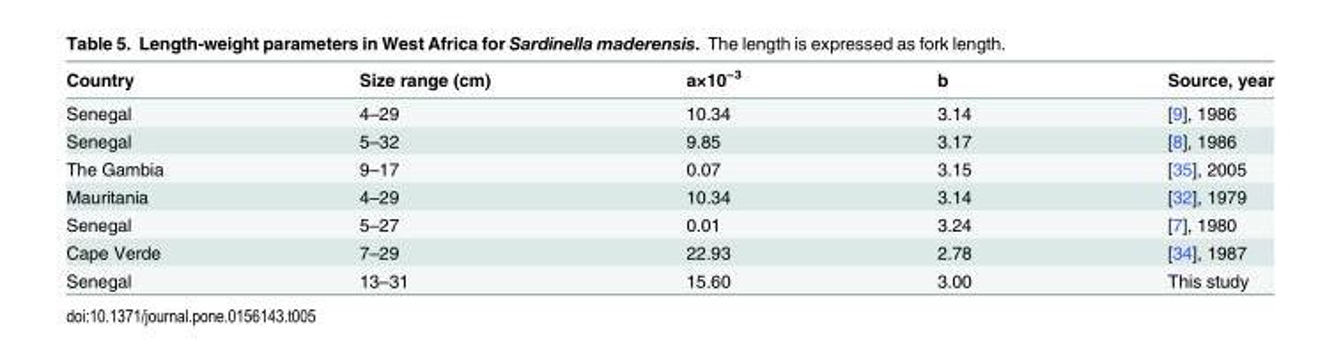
<table><thead><tr><td>Country</td><td>Size range (cm)</td><td>a×10<sup>−3</sup></td><td>b</td><td>Source, year</td></tr></thead><tbody><tr><td>Senegal</td><td>4–29</td><td>10.34</td><td>3.14</td><td>[9], 1986</td></tr><tr><td>Senegal</td><td>5–32</td><td>9.85</td><td>3.17</td><td>[8], 1986</td></tr><tr><td>The Gambia</td><td>9–17</td><td>0.07</td><td>3.15</td><td>[35], 2005</td></tr><tr><td>Mauritania</td><td>4–29</td><td>10.34</td><td>3.14</td><td>[32], 1979</td></tr><tr><td>Senegal</td><td>5–27</td><td>0.01</td><td>3.24</td><td>[7], 1980</td></tr><tr><td>Cape Verde</td><td>7–29</td><td>22.93</td><td>2.78</td><td>[34], 1987</td></tr><tr><td>Senegal</td><td>13–31</td><td>15.60</td><td>3.00</td><td>This study</td></tr></tbody></table>